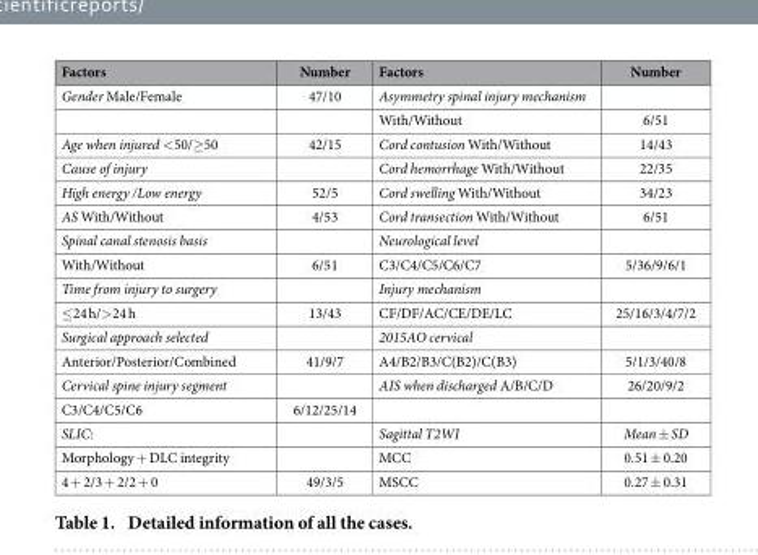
<table><thead><tr><td>Factors</td><td>Number</td><td>Factors</td><td>Number</td></tr></thead><tbody><tr><td rowspan="2">Gender Male/Female</td><td>47/10</td><td>Asymmetry spinal injury mechanism</td><td></td></tr><tr><td></td><td>With/Without</td><td>6/51</td></tr><tr><td>Age when injured &lt; 50/≥ 50</td><td>42/15</td><td>Cord contusion With/Without</td><td>14/43</td></tr><tr><td>Cause of injury</td><td></td><td>Cord hemorrhage With/Without</td><td>22/35</td></tr><tr><td>High energy /Low energy</td><td>52/5</td><td>Cord swelling With/Without</td><td>34/23</td></tr><tr><td>AS With/Without</td><td>4/53</td><td>Cord transection With/Without</td><td>6/51</td></tr><tr><td>Spinal canal stenosis basis</td><td></td><td>Neurological level</td><td></td></tr><tr><td>With/Without</td><td>6/51</td><td>C3/C4/C5/C6/C7</td><td>5/36/9/6/1</td></tr><tr><td>Time from injury to surgery</td><td></td><td>Injury mechanism</td><td></td></tr><tr><td>≤ 24 h/&gt; 24 h</td><td>13/43</td><td>CF/DF/AC/CE/DE/LC</td><td>25/16/3/4/7/2</td></tr><tr><td>Surgical approach selected</td><td></td><td>2015AO cervical</td><td></td></tr><tr><td>Anterior/Posterior/Combined</td><td>41/9/7</td><td>A4/B2/B3/C(B2)/C(B3)</td><td>5/1/3/40/8</td></tr><tr><td>Cervical spine injury segment</td><td></td><td>AIS when discharged A/B/C/D</td><td>26/20/9/2</td></tr><tr><td>C3/C4/C5/C6</td><td>6/12/25/14</td><td></td><td></td></tr><tr><td>SLIC:</td><td></td><td>Sagittal T2WI</td><td>Mean ± SD</td></tr><tr><td>Morphology + DLC integrity</td><td></td><td>MCC</td><td>0.51 ± 0.20</td></tr><tr><td>4 + 2/3 + 2/2 + 0</td><td>49/3/5</td><td>MSCC</td><td>0.27 ± 0.31</td></tr></tbody></table>